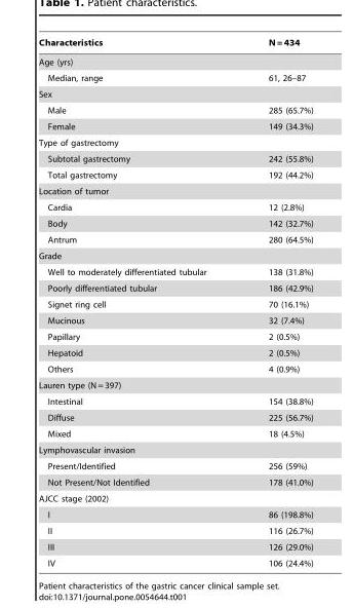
<table><thead><tr><td>Characteristics</td><td>N = 434</td></tr></thead><tbody><tr><td colspan="2">Age (yrs)</td></tr><tr><td>Median, range</td><td>61, 26–87</td></tr><tr><td colspan="2">Sex</td></tr><tr><td>Male</td><td>285 (65.7%)</td></tr><tr><td>Female</td><td>149 (34.3%)</td></tr><tr><td colspan="2">Type of gastrectomy</td></tr><tr><td>Subtotal gastrectomy</td><td>242 (55.8%)</td></tr><tr><td>Total gastrectomy</td><td>192 (44.2%)</td></tr><tr><td colspan="2">Location of tumor</td></tr><tr><td>Cardia</td><td>12 (2.8%)</td></tr><tr><td>Body</td><td>142 (32.7%)</td></tr><tr><td>Antrum</td><td>280 (64.5%)</td></tr><tr><td colspan="2">Grade</td></tr><tr><td>Well to moderately differentiated tubular</td><td>138 (31.8%)</td></tr><tr><td>Poorly differentiated tubular</td><td>186 (42.9%)</td></tr><tr><td>Signet ring cell</td><td>70 (16.1%)</td></tr><tr><td>Mucinous</td><td>32 (7.4%)</td></tr><tr><td>Papillary</td><td>2 (0.5%)</td></tr><tr><td>Hepatoid</td><td>2 (0.5%)</td></tr><tr><td>Others</td><td>4 (0.9%)</td></tr><tr><td colspan="2">Lauren type (N = 397)</td></tr><tr><td>Intestinal</td><td>154 (38.8%)</td></tr><tr><td>Diffuse</td><td>225 (56.7%)</td></tr><tr><td>Mixed</td><td>18 (4.5%)</td></tr><tr><td colspan="2">Lymphovascular invasion</td></tr><tr><td>Present/Identified</td><td>256 (59%)</td></tr><tr><td>Not Present/Not Identified</td><td>178 (41.0%)</td></tr><tr><td colspan="2">AJCC stage (2002)</td></tr><tr><td>I</td><td>86 (198.8%)</td></tr><tr><td>II</td><td>116 (26.7%)</td></tr><tr><td>III</td><td>126 (29.0%)</td></tr><tr><td>IV</td><td>106 (24.4%)</td></tr></tbody></table>